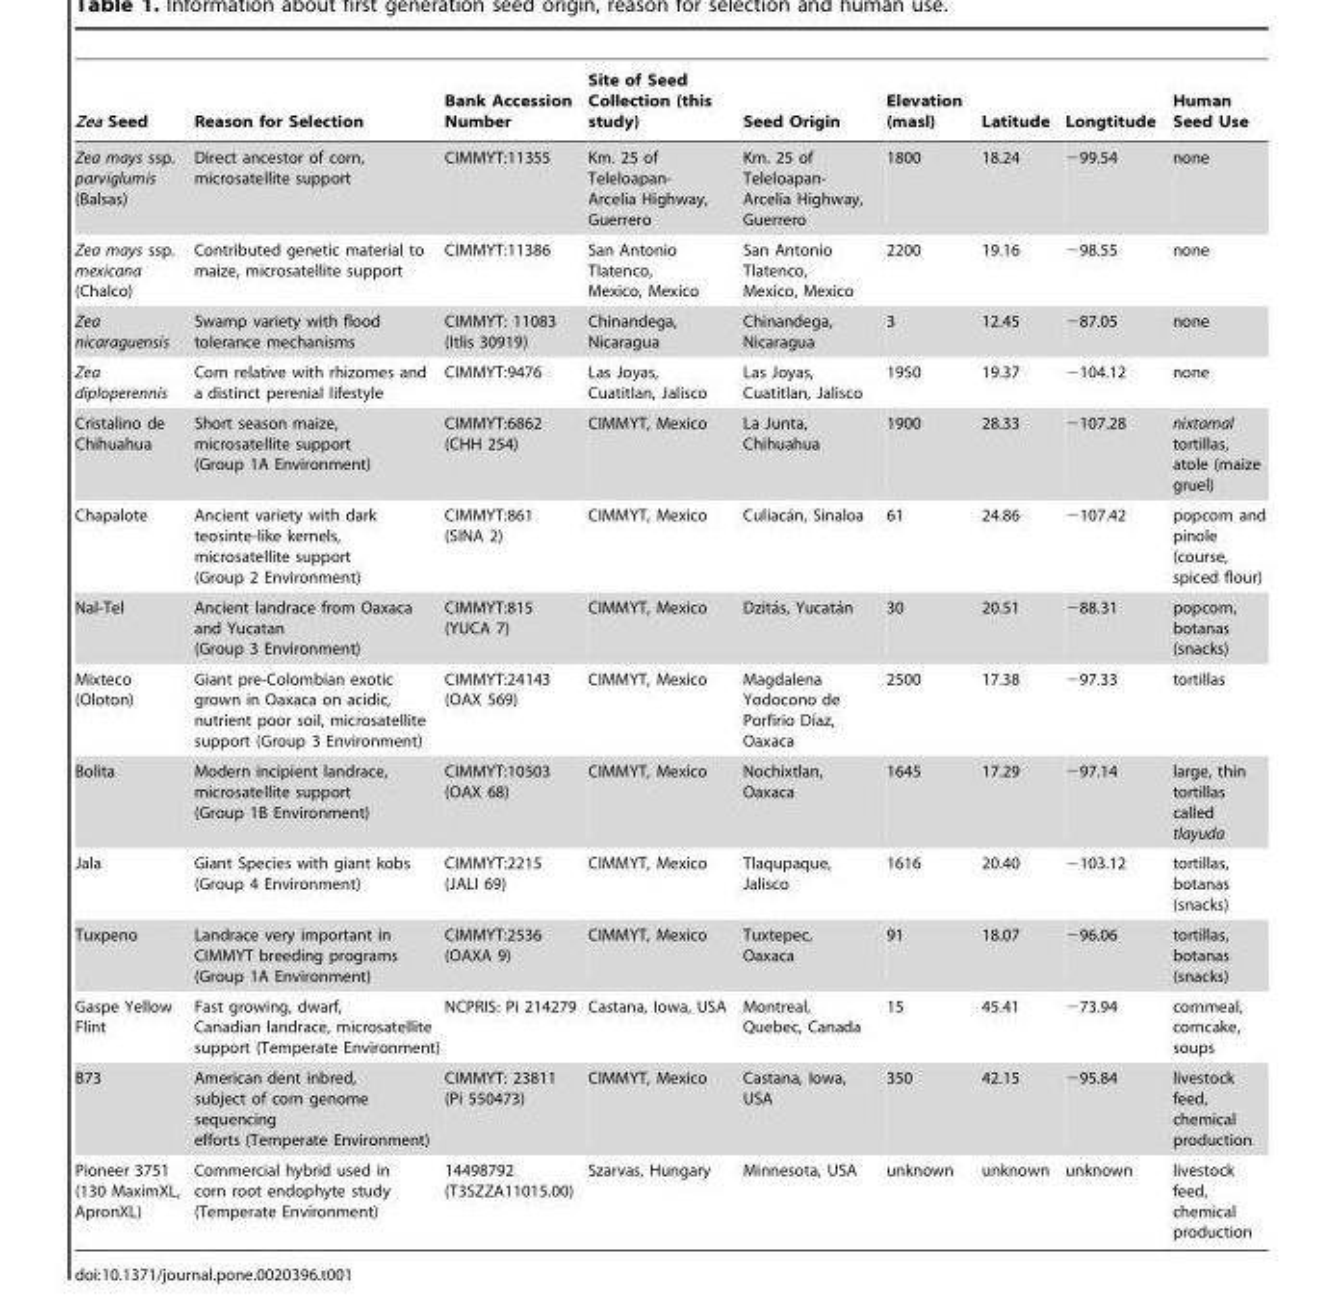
<table><thead><tr><td>Zea Seed</td><td>Reason for Selection</td><td>Bank Accession Number</td><td>Site of Seed Collection (this study)</td><td>Seed Origin</td><td>Elevation (masl)</td><td>Latitude</td><td>Longtitude</td><td>Human Seed Use</td></tr></thead><tbody><tr><td>Zea mays ssp. parviglumis (Balsas)</td><td>Direct ancestor of corn, microsatellite support</td><td>CIMMYT:11355</td><td>Km. 25 of Teleloapan- Arcelia Highway, Guerrero</td><td>Km. 25 of Teleloapan- Arcelia Highway, Guerrero</td><td>1800</td><td>18.24</td><td>−99.54</td><td>none</td></tr><tr><td>Zea mays ssp. mexicana (Chalco)</td><td>Contributed genetic material to maize, microsatellite support</td><td>CIMMYT:11386</td><td>San Antonio Tlatenco, Mexico, Mexico</td><td>San Antonio Tlatenco, Mexico, Mexico</td><td>2200</td><td>19.16</td><td>−98.55</td><td>none</td></tr><tr><td>Zea nicaraguensis</td><td>Swamp variety with flood tolerance mechanisms</td><td>CIMMYT: 11083 (Itlis 30919)</td><td>Chinandega, Nicaragua</td><td>Chinandega, Nicaragua</td><td>3</td><td>12.45</td><td>−87.05</td><td>none</td></tr><tr><td>Zea diploperennis</td><td>Corn relative with rhizomes and a distinct perenial lifestyle</td><td>CIMMYT:9476</td><td>Las Joyas, Cuatitlan, Jalisco</td><td>Las Joyas, Cuatitlan, Jalisco</td><td>1950</td><td>19.37</td><td>−104.12</td><td>none</td></tr><tr><td>Cristalino de Chihuahua</td><td>Short season maize, microsatellite support (Group 1A Environment)</td><td>CIMMYT:6862 (CHH 254)</td><td>CIMMYT, Mexico</td><td>La Junta, Chihuahua</td><td>1900</td><td>28.33</td><td>−107.28</td><td>nixtamal tortillas, atole (maize gruel)</td></tr><tr><td>Chapalote</td><td>Ancient variety with dark teosinte-like kernels, microsatellite support (Group 2 Environment)</td><td>CIMMYT:861 (SINA 2)</td><td>CIMMYT, Mexico</td><td>Culiaca´n, Sinaloa</td><td>61</td><td>24.86</td><td>−107.42</td><td>popcorn and pinole (course, spiced flour)</td></tr><tr><td>Nal-Tel</td><td>Ancient landrace from Oaxaca and Yucatan (Group 3 Environment)</td><td>CIMMYT:815 (YUCA 7)</td><td>CIMMYT, Mexico</td><td>Dzita´s, Yucata´n</td><td>30</td><td>20.51</td><td>−88.31</td><td>popcorn, botanas (snacks)</td></tr><tr><td>Mixteco (Oloton)</td><td>Giant pre-Colombian exotic grown in Oaxaca on acidic, nutrient poor soil, microsatellite support (Group 3 Environment)</td><td>CIMMYT:24143 (OAX 569)</td><td>CIMMYT, Mexico</td><td>Magdalena Yodocono de Porfirio Dı´az, Oaxaca</td><td>2500</td><td>17.38</td><td>−97.33</td><td>tortillas</td></tr><tr><td>Bolita</td><td>Modern incipient landrace, microsatellite support (Group 1B Environment)</td><td>CIMMYT:10503 (OAX 68)</td><td>CIMMYT, Mexico</td><td>Nochixtlan, Oaxaca</td><td>1645</td><td>17.29</td><td>−97.14</td><td>large, thin tortillas called tlayuda</td></tr><tr><td>Jala</td><td>Giant Species with giant kobs (Group 4 Environment)</td><td>CIMMYT:2215 (JALI 69)</td><td>CIMMYT, Mexico</td><td>Tlaqupaque, Jalisco</td><td>1616</td><td>20.40</td><td>−103.12</td><td>tortillas, botanas (snacks)</td></tr><tr><td>Tuxpeno</td><td>Landrace very important in CIMMYT breeding programs (Group 1A Environment)</td><td>CIMMYT:2536 (OAXA 9)</td><td>CIMMYT, Mexico</td><td>Tuxtepec, Oaxaca</td><td>91</td><td>18.07</td><td>−96.06</td><td>tortillas, botanas (snacks)</td></tr><tr><td>Gaspe Yellow Flint</td><td>Fast growing, dwarf, Canadian landrace, microsatellite support (Temperate Environment)</td><td>NCPRIS: Pi 214279</td><td>Castana, Iowa, USA</td><td>Montreal, Quebec, Canada</td><td>15</td><td>45.41</td><td>−73.94</td><td>cornmeal, corncake, soups</td></tr><tr><td>B73</td><td>American dent inbred, subject of corn genome sequencing efforts (Temperate Environment)</td><td>CIMMYT: 23811 (Pi 550473)</td><td>CIMMYT, Mexico</td><td>Castana, Iowa, USA</td><td>350</td><td>42.15</td><td>−95.84</td><td>livestock feed, chemical production</td></tr><tr><td>Pioneer 3751 (130 MaximXL, ApronXL)</td><td>Commercial hybrid used in corn root endophyte study (Temperate Environment)</td><td>14498792 (T3SZZA11015.00)</td><td>Szarvas, Hungary</td><td>Minnesota, USA</td><td>unknown</td><td>unknown</td><td>unknown</td><td>livestock feed, chemical production</td></tr></tbody></table>